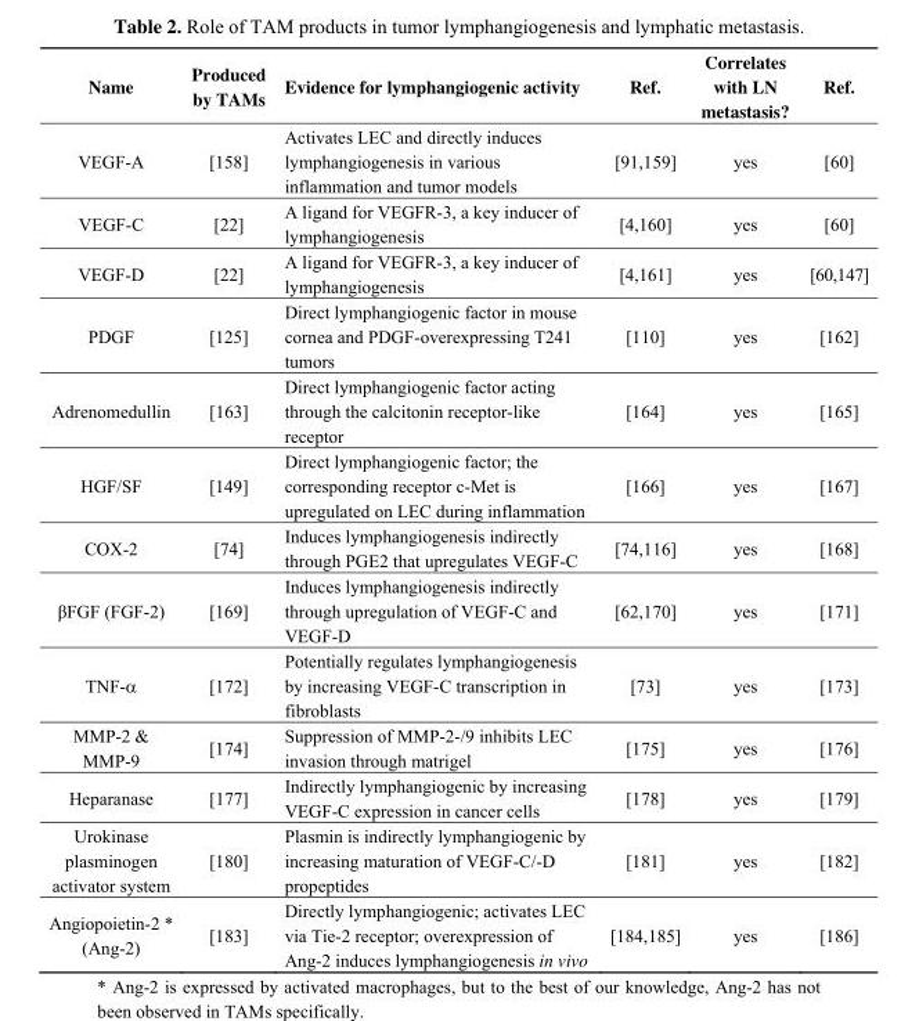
<table><thead><tr><td>Name</td><td>Produced by TAMs</td><td>Evidence for lymphangiogenic activity</td><td>Ref.</td><td>Correlates with LN metastasis?</td><td>Ref.</td></tr></thead><tbody><tr><td>VEGF-A</td><td>[158]</td><td>Activates LEC and directly induces lymphangiogenesis in various inflammation and tumor models</td><td>[91,159]</td><td>yes</td><td>[60]</td></tr><tr><td>VEGF-C</td><td>[22]</td><td>A ligand for VEGFR-3, a key inducer of lymphangiogenesis</td><td>[4,160]</td><td>yes</td><td>[60]</td></tr><tr><td>VEGF-D</td><td>[22]</td><td>A ligand for VEGFR-3, a key inducer of lymphangiogenesis</td><td>[4,161]</td><td>yes</td><td>[60,147]</td></tr><tr><td>PDGF</td><td>[125]</td><td>Direct lymphangiogenic factor in mouse cornea and PDGF-overexpressing T241 tumors</td><td>[110]</td><td>yes</td><td>[162]</td></tr><tr><td>Adrenomedullin</td><td>[163]</td><td>Direct lymphangiogenic factor acting through the calcitonin receptor-like receptor</td><td>[164]</td><td>yes</td><td>[165]</td></tr><tr><td>HGF/SF</td><td>[149]</td><td>Direct lymphangiogenic factor; the corresponding receptor c-Met is upregulated on LEC during inflammation</td><td>[166]</td><td>yes</td><td>[167]</td></tr><tr><td>COX-2</td><td>[74]</td><td>Induces lymphangiogenesis indirectly through PGE2 that upregulates VEGF-C</td><td>[74,116]</td><td>yes</td><td>[168]</td></tr><tr><td>βFGF (FGF-2)</td><td>[169]</td><td>Induces lymphangiogenesis indirectly through upregulation of VEGF-C and VEGF-D</td><td>[62,170]</td><td>yes</td><td>[171]</td></tr><tr><td>TNF-α</td><td>[172]</td><td>Potentially regulates lymphangiogenesis by increasing VEGF-C transcription in fibroblasts</td><td>[73]</td><td>yes</td><td>[173]</td></tr><tr><td>MMP-2 &amp; MMP-9</td><td>[174]</td><td>Suppression of MMP-2-/9 inhibits LEC invasion through matrigel</td><td>[175]</td><td>yes</td><td>[176]</td></tr><tr><td>Heparanase</td><td>[177]</td><td>Indirectly lymphangiogenic by increasing VEGF-C expression in cancer cells</td><td>[178]</td><td>yes</td><td>[179]</td></tr><tr><td>Urokinase plasminogen activator system</td><td>[180]</td><td>Plasmin is indirectly lymphangiogenic by increasing maturation of VEGF-C/-D propeptides</td><td>[181]</td><td>yes</td><td>[182]</td></tr><tr><td>Angiopoietin-2 * (Ang-2)</td><td>[183]</td><td>Directly lymphangiogenic; activates LEC via Tie-2 receptor; overexpression of Ang-2 induces lymphangiogenesis in vivo</td><td>[184,185]</td><td>yes</td><td>[186]</td></tr></tbody></table>